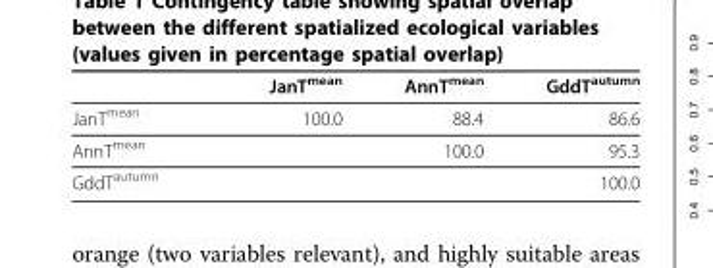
<table><thead><tr><td></td><td>JanT<sup>mean</sup></td><td>AnnT<sup>mean</sup></td><td>GddT<sup>autumn</sup></td></tr></thead><tbody><tr><td>JanT<sup>mean</sup></td><td>100.0</td><td>88.4</td><td>86.6</td></tr><tr><td>AnnT<sup>mean</sup></td><td></td><td>100.0</td><td>95.3</td></tr><tr><td>GddT<sup>autumn</sup></td><td></td><td></td><td>100.0</td></tr></tbody></table>